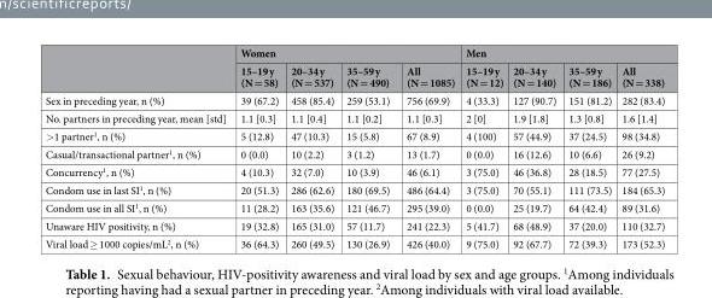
<table><thead><tr><td rowspan="2"></td><td colspan="4">Women</td><td colspan="4">Men</td></tr><tr><td>15–19 y (N = 58)</td><td>20–34 y (N = 537)</td><td>35–59 y (N = 490)</td><td>All (N = 1085)</td><td>15–19 y (N = 12)</td><td>20–34 y (N = 140)</td><td>35–59 y (N = 186)</td><td>All (N = 338)</td></tr></thead><tbody><tr><td>Sex in preceding year, n (%)</td><td>39 (67.2)</td><td>458 (85.4)</td><td>259 (53.1)</td><td>756 (69.9)</td><td>4 (33.3)</td><td>127 (90.7)</td><td>151 (81.2)</td><td>282 (83.4)</td></tr><tr><td>No. partners in preceding year, mean [std]</td><td>1.1 [0.3]</td><td>1.1 [0.4]</td><td>1.1 [0.2]</td><td>1.1 [0.3]</td><td>2 [0]</td><td>1.9 [1.8]</td><td>1.3 [0.8]</td><td>1.6 [1.4]</td></tr><tr><td>&gt;1 partner<sup>1</sup>, n (%)</td><td>5 (12.8)</td><td>47 (10.3)</td><td>15 (5.8)</td><td>67 (8.9)</td><td>4 (100)</td><td>57 (44.9)</td><td>37 (24.5)</td><td>98 (34.8)</td></tr><tr><td>Casual/transactional partner<sup>1</sup>, n (%)</td><td>0 (0.0)</td><td>10 (2.2)</td><td>3 (1.2)</td><td>13 (1.7)</td><td>0 (0.0)</td><td>16 (12.6)</td><td>10 (6.6)</td><td>26 (9.2)</td></tr><tr><td>Concurrency<sup>1</sup>, n (%)</td><td>4 (10.3)</td><td>32 (7.0)</td><td>10 (3.9)</td><td>46 (6.1)</td><td>3 (75.0)</td><td>46 (36.8)</td><td>28 (18.5)</td><td>77 (27.5)</td></tr><tr><td>Condom use in last SI<sup>1</sup>, n (%)</td><td>20 (51.3)</td><td>286 (62.6)</td><td>180 (69.5)</td><td>486 (64.4)</td><td>3 (75.0)</td><td>70 (55.1)</td><td>111 (73.5)</td><td>184 (65.3)</td></tr><tr><td>Condom use in all SI<sup>1</sup>, n (%)</td><td>11 (28.2)</td><td>163 (35.6)</td><td>121 (46.7)</td><td>295 (39.0)</td><td>0 (0.0)</td><td>25 (19.7)</td><td>64 (42.4)</td><td>89 (31.6)</td></tr><tr><td>Unaware HIV positivity, n (%)</td><td>19 (32.8)</td><td>165 (31.0)</td><td>57 (11.7)</td><td>241 (22.3)</td><td>5 (41.7)</td><td>68 (48.9)</td><td>37 (20.0)</td><td>110 (32.7)</td></tr><tr><td>Viral load ≥ 1000 copies/mL<sup>2</sup>, n (%)</td><td>36 (64.3)</td><td>260 (49.5)</td><td>130 (26.9)</td><td>426 (40.0)</td><td>9 (75.0)</td><td>92 (67.7)</td><td>72 (39.3)</td><td>173 (52.3)</td></tr></tbody></table>